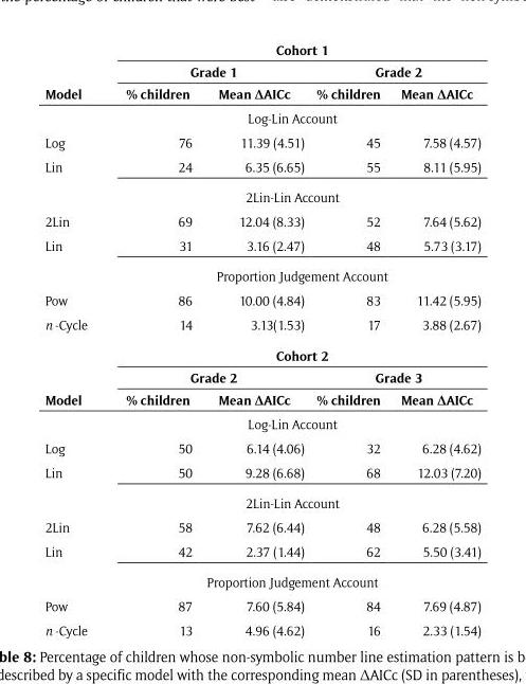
<table><thead><tr><td rowspan="3">Model</td><td colspan="4">Cohort 1</td></tr><tr><td colspan="2">Grade 1</td><td colspan="2">Grade 2</td></tr><tr><td>% children</td><td>Mean ΔAICc</td><td>% children</td><td>Mean ΔAICc</td></tr></thead><tbody><tr><td colspan="5">Log-Lin Account</td></tr><tr><td>Log</td><td>76</td><td>11.39 (4.51)</td><td>45</td><td>7.58 (4.57)</td></tr><tr><td>Lin</td><td>24</td><td>6.35 (6.65)</td><td>55</td><td>8.11 (5.95)</td></tr><tr><td colspan="5">2Lin-Lin Account</td></tr><tr><td>2Lin</td><td>69</td><td>12.04 (8.33)</td><td>52</td><td>7.64 (5.62)</td></tr><tr><td>Lin</td><td>31</td><td>3.16 (2.47)</td><td>48</td><td>5.73 (3.17)</td></tr><tr><td colspan="5">Proportion Judgement Account</td></tr><tr><td>Pow</td><td>86</td><td>10.00 (4.84)</td><td>83</td><td>11.42 (5.95)</td></tr><tr><td rowspan="3">n -Cycle</td><td>14</td><td>3.13(1.53)</td><td>17</td><td>3.88 (2.67)</td></tr><tr><td colspan="4">Cohort 2</td></tr><tr><td colspan="2">Grade 2</td><td colspan="2">Grade 3</td></tr><tr><td>Model</td><td>% children</td><td>Mean ΔAICc</td><td>% children</td><td>Mean ΔAICc</td></tr><tr><td colspan="5">Log-Lin Account</td></tr><tr><td>Log</td><td>50</td><td>6.14 (4.06)</td><td>32</td><td>6.28 (4.62)</td></tr><tr><td>Lin</td><td>50</td><td>9.28 (6.68)</td><td>68</td><td>12.03 (7.20)</td></tr><tr><td colspan="5">2Lin-Lin Account</td></tr><tr><td>2Lin</td><td>58</td><td>7.62 (6.44)</td><td>48</td><td>6.28 (5.58)</td></tr><tr><td>Lin</td><td>42</td><td>2.37 (1.44)</td><td>62</td><td>5.50 (3.41)</td></tr><tr><td colspan="5">Proportion Judgement Account</td></tr><tr><td>Pow</td><td>87</td><td>7.60 (5.84)</td><td>84</td><td>7.69 (4.87)</td></tr><tr><td>n -Cycle</td><td>13</td><td>4.96 (4.62)</td><td>16</td><td>2.33 (1.54)</td></tr></tbody></table>